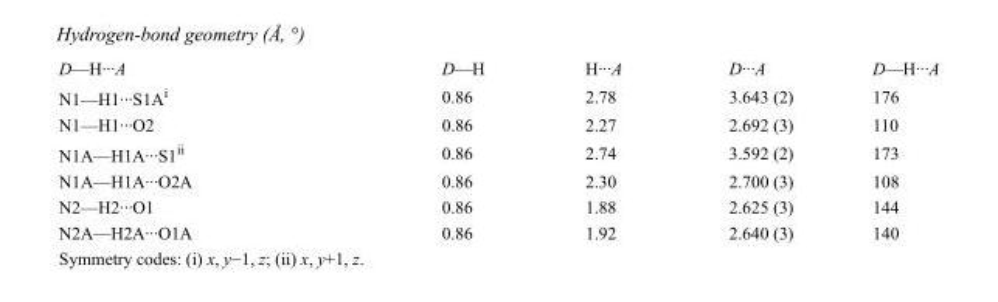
<table><tbody><tr><td>D—H···A</td><td>D—H</td><td>H···A</td><td>D···A</td><td>D—H···A</td></tr><tr><td>N1—H1···S1A<sup>i</sup></td><td>0.86</td><td>2.78</td><td>3.643 (2)</td><td>176</td></tr><tr><td>N1—H1···O2</td><td>0.86</td><td>2.27</td><td>2.692 (3)</td><td>110</td></tr><tr><td>N1A—H1A···S1<sup>ii</sup></td><td>0.86</td><td>2.74</td><td>3.592 (2)</td><td>173</td></tr><tr><td>N1A—H1A···O2A</td><td>0.86</td><td>2.30</td><td>2.700 (3)</td><td>108</td></tr><tr><td>N2—H2···O1</td><td>0.86</td><td>1.88</td><td>2.625 (3)</td><td>144</td></tr><tr><td>N2A—H2A···O1A</td><td>0.86</td><td>1.92</td><td>2.640 (3)</td><td>140</td></tr></tbody></table>